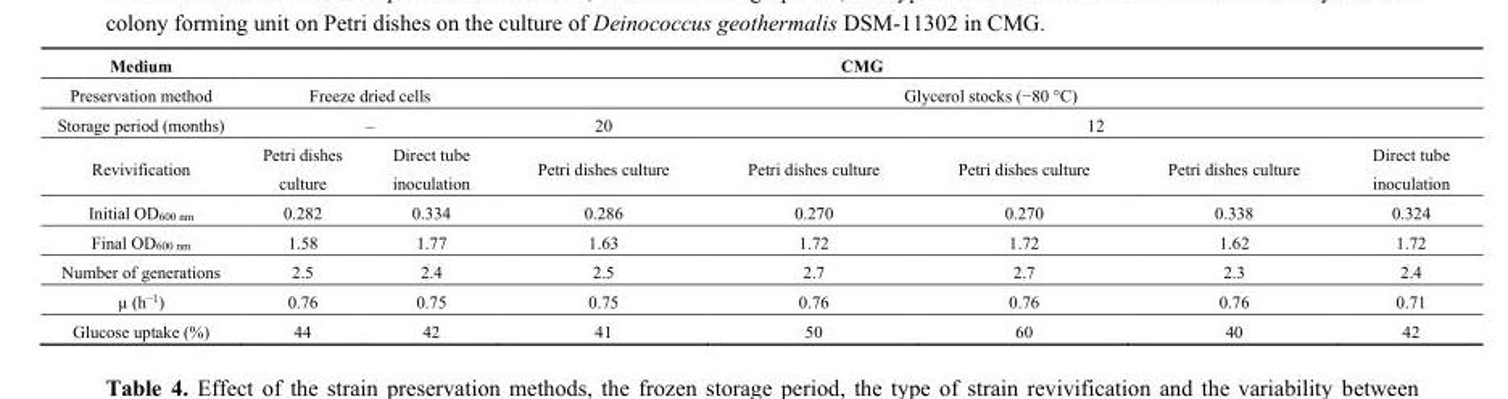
<table><thead><tr><td rowspan="4">Medium Preservation method Storage period (months) Revivification</td><td colspan="7">CMG</td></tr><tr><td rowspan="2" colspan="2">Freeze dried cells –</td><td colspan="5">Glycerol stocks (−80 °C)</td></tr><tr><td rowspan="2">20 Petri dishes culture</td><td colspan="4">12</td></tr><tr><td>Petri dishes culture</td><td>Direct tube inoculation</td><td>Petri dishes culture</td><td>Petri dishes culture</td><td>Petri dishes culture</td><td>Direct tube inoculation</td></tr></thead><tbody><tr><td>Initial OD<sub>600 nm</sub></td><td>0.282</td><td>0.334</td><td>0.286</td><td>0.270</td><td>0.270</td><td>0.338</td><td>0.324</td></tr><tr><td>Final OD<sub>600 nm</sub></td><td>1.58</td><td>1.77</td><td>1.63</td><td>1.72</td><td>1.72</td><td>1.62</td><td>1.72</td></tr><tr><td>Number of generations</td><td>2.5</td><td>2.4</td><td>2.5</td><td>2.7</td><td>2.7</td><td>2.3</td><td>2.4</td></tr><tr><td>µ (h<sup>−1</sup>)</td><td>0.76</td><td>0.75</td><td>0.75</td><td>0.76</td><td>0.76</td><td>0.76</td><td>0.71</td></tr><tr><td>Glucose uptake (%)</td><td>44</td><td>42</td><td>41</td><td>50</td><td>60</td><td>40</td><td>42</td></tr></tbody></table>